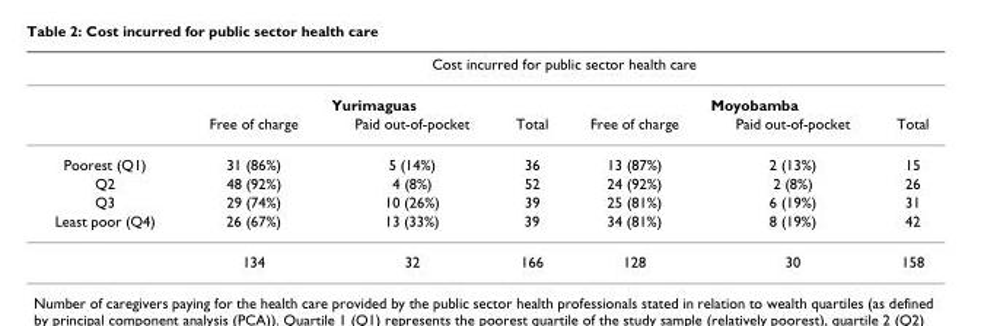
<table><thead><tr><td rowspan="3"></td><td colspan="6">Cost incurred for public sector health care</td></tr><tr><td colspan="3">Yurimaguas</td><td colspan="3">Moyobamba</td></tr><tr><td>Free of charge</td><td>Paid out-of-pocket</td><td>Total</td><td>Free of charge</td><td>Paid out-of-pocket</td><td>Total</td></tr></thead><tbody><tr><td>Poorest (Q1)</td><td>31 (86%)</td><td>5 (14%)</td><td>36</td><td>13 (87%)</td><td>2 (13%)</td><td>15</td></tr><tr><td>Q2</td><td>48 (92%)</td><td>4 (8%)</td><td>52</td><td>24 (92%)</td><td>2 (8%)</td><td>26</td></tr><tr><td>Q3</td><td>29 (74%)</td><td>10 (26%)</td><td>39</td><td>25 (81%)</td><td>6 (19%)</td><td>31</td></tr><tr><td rowspan="2">Least poor (Q4)</td><td>26 (67%)</td><td>13 (33%)</td><td>39</td><td>34 (81%)</td><td>8 (19%)</td><td>42</td></tr><tr><td>134</td><td>32</td><td>166</td><td>128</td><td>30</td><td>158</td></tr></tbody></table>